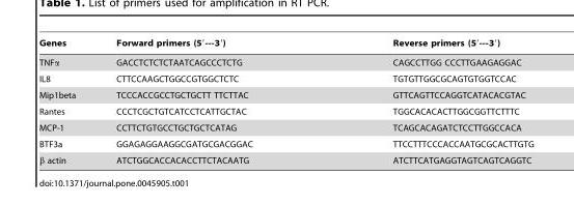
<table><thead><tr><td>Genes</td><td>Forward primers (5′---3′)</td><td>Reverse primers (5′---3′)</td></tr></thead><tbody><tr><td>TNFα</td><td>GACCTCTCTCTAATCAGCCCTCTG</td><td>CAGCCTTGG CCCTTGAAGAGGAC</td></tr><tr><td>IL8</td><td>CTTCCAAGCTGGCCGTGGCTCTC</td><td>TGTGTTGGCGCAGTGTGGTCCAC</td></tr><tr><td>Mip1beta</td><td>TCCCACCGCCTGCTGCTT TTCTTAC</td><td>GTTCAGTTCCAGGTCATACACGTAC</td></tr><tr><td>Rantes</td><td>CCCTCGCTGTCATCCTCATTGCTAC</td><td>TGGCACACACTTGGCGGTTCTTTC</td></tr><tr><td>MCP-1</td><td>CCTTCTGTGCCTGCTGCTCATAG</td><td>TCAGCACAGATCTCCTTGGCCACA</td></tr><tr><td>BTF3a</td><td>GGAGAGGAAGGCGATGCGACGGAC</td><td>TTCCTTTCCCACCAATGCGCACTTGTG</td></tr><tr><td>β actin</td><td>ATCTGGCACCACACCTTCTACAATG</td><td>ATCTTCATGAGGTAGTCAGTCAGGTC</td></tr></tbody></table>